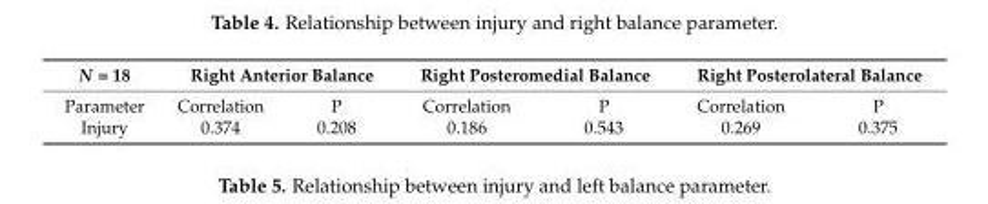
<table><thead><tr><td rowspan="2">N = 18 Parameter</td><td colspan="2">Right Anterior Balance</td><td colspan="2">Right Posteromedial Balance</td><td colspan="2">Right Posterolateral Balance</td></tr><tr><td>Correlation</td><td>P</td><td>Correlation</td><td>P</td><td>Correlation</td><td>P</td></tr></thead><tbody><tr><td>Injury</td><td>0.374</td><td>0.208</td><td>0.186</td><td>0.543</td><td>0.269</td><td>0.375</td></tr></tbody></table>